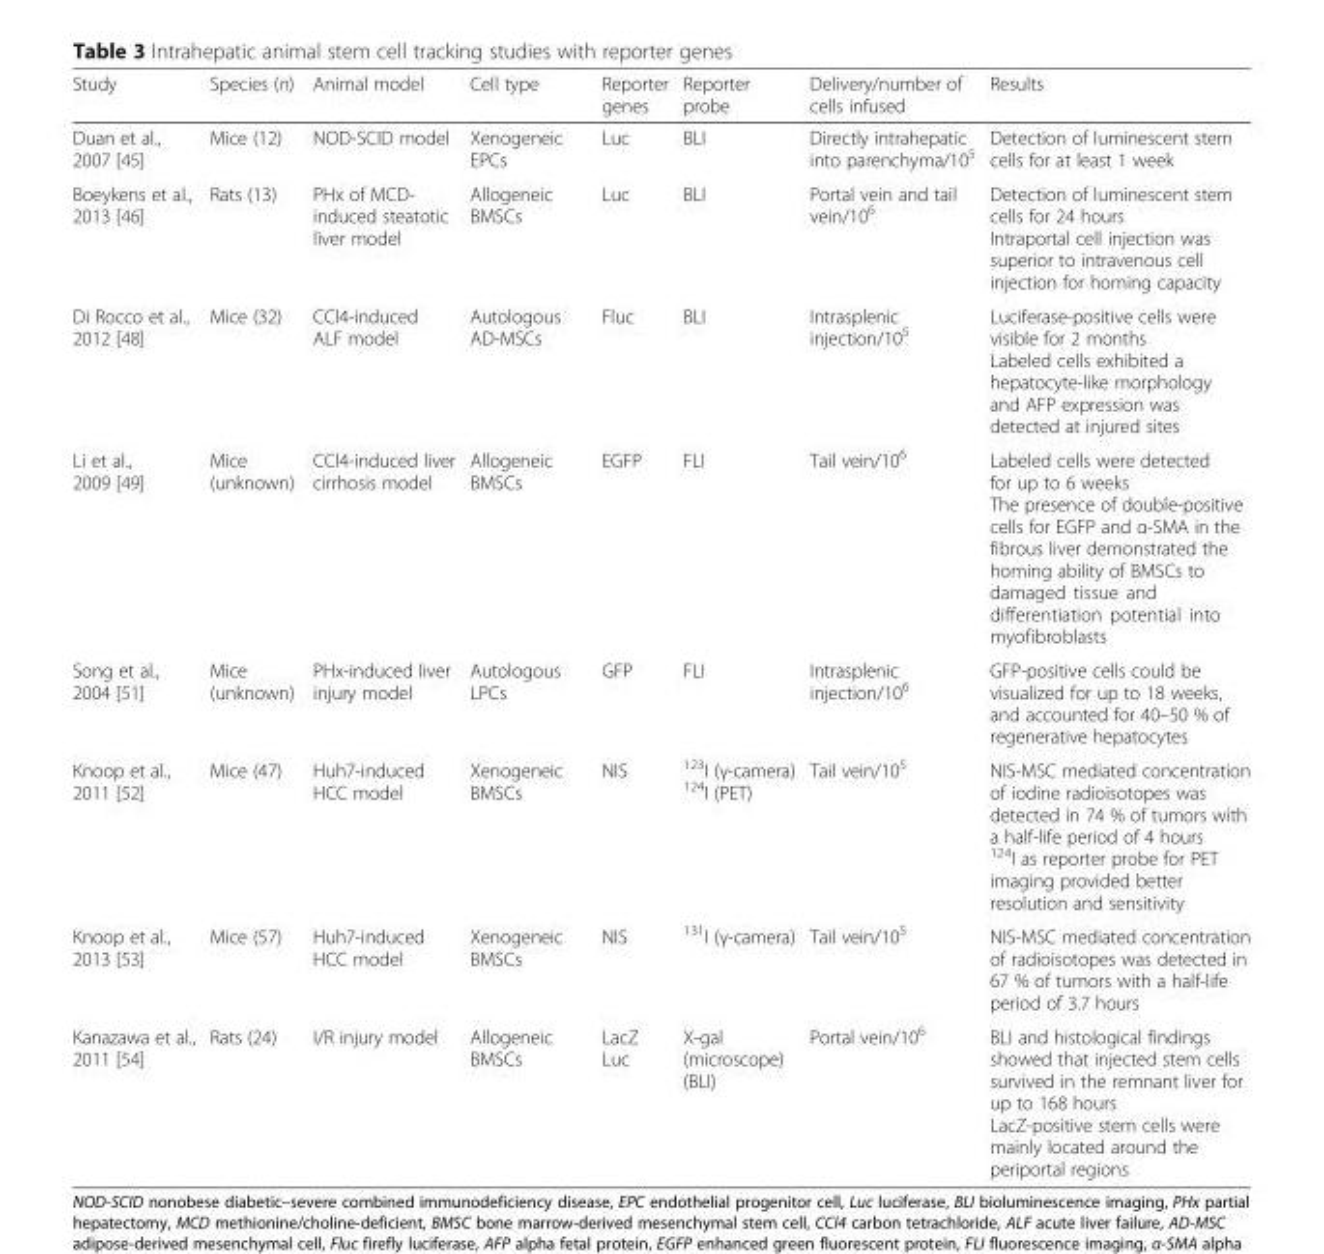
<table><thead><tr><td>Study</td><td>Species (n)</td><td>Animal model</td><td>Cell type</td><td>Reporter genes</td><td>Reporter probe</td><td>Delivery/number of cells infused</td><td>Results</td></tr></thead><tbody><tr><td>Duan et al., 2007 [45]</td><td>Mice (12)</td><td>NOD-SCID model</td><td>Xenogeneic EPCs</td><td>Luc</td><td>BLI</td><td>Directly intrahepatic into parenchyma/10<sup>5</sup></td><td>Detection of luminescent stem cells for at least 1 week</td></tr><tr><td>Boeykens et al., 2013 [46]</td><td>Rats (13)</td><td>PHx of MCD- induced steatotic liver model</td><td>Allogeneic BMSCs</td><td>Luc</td><td>BLI</td><td>Portal vein and tail vein/10<sup>6</sup></td><td>Detection of luminescent stem cells for 24 hours Intraportal cell injection was superior to intravenous cell injection for homing capacity</td></tr><tr><td>Di Rocco et al., 2012 [48]</td><td>Mice (32)</td><td>CCl4-induced ALF model</td><td>Autologous AD-MSCs</td><td>Fluc</td><td>BLI</td><td>Intrasplenic injection/10<sup>5</sup></td><td>Luciferase-positive cells were visible for 2 months Labeled cells exhibited a hepatocyte-like morphology and AFP expression was detected at injured sites</td></tr><tr><td>Li et al., 2009 [49]</td><td>Mice (unknown)</td><td>CCl4-induced liver cirrhosis model</td><td>Allogeneic BMSCs</td><td>EGFP</td><td>FLI</td><td>Tail vein/10<sup>6</sup></td><td>Labeled cells were detected for up to 6 weeks The presence of double-positive cells for EGFP and α-SMA in the fibrous liver demonstrated the homing ability of BMSCs to damaged tissue and differentiation potential into myofibroblasts</td></tr><tr><td>Song et al., 2004 [51]</td><td>Mice (unknown)</td><td>PHx-induced liver injury model</td><td>Autologous LPCs</td><td>GFP</td><td>FLI</td><td>Intrasplenic injection/10<sup>6</sup></td><td>GFP-positive cells could be visualized for up to 18 weeks, and accounted for 40–50 % of regenerative hepatocytes</td></tr><tr><td>Knoop et al., 2011 [52]</td><td>Mice (47)</td><td>Huh7-induced HCC model</td><td>Xenogeneic BMSCs</td><td>NIS</td><td><sup>123</sup>I (γ-camera) <sup>124</sup>I (PET)</td><td>Tail vein/10<sup>5</sup></td><td>NIS-MSC mediated concentration of iodine radioisotopes was detected in 74 % of tumors with a half-life period of 4 hours <sup>124</sup>I as reporter probe for PET imaging provided better resolution and sensitivity</td></tr><tr><td>Knoop et al., 2013 [53]</td><td>Mice (57)</td><td>Huh7-induced HCC model</td><td>Xenogeneic BMSCs</td><td>NIS</td><td><sup>131</sup>I (γ-camera)</td><td>Tail vein/10<sup>5</sup></td><td>NIS-MSC mediated concentration of radioisotopes was detected in 67 % of tumors with a half-life period of 3.7 hours</td></tr><tr><td>Kanazawa et al., 2011 [54]</td><td>Rats (24)</td><td>I/R injury model</td><td>Allogeneic BMSCs</td><td>LacZ Luc</td><td>X-gal (microscope) (BLI)</td><td>Portal vein/10<sup>6</sup></td><td>BLI and histological findings showed that injected stem cells survived in the remnant liver for up to 168 hours LacZ-positive stem cells were mainly located around the periportal regions</td></tr></tbody></table>